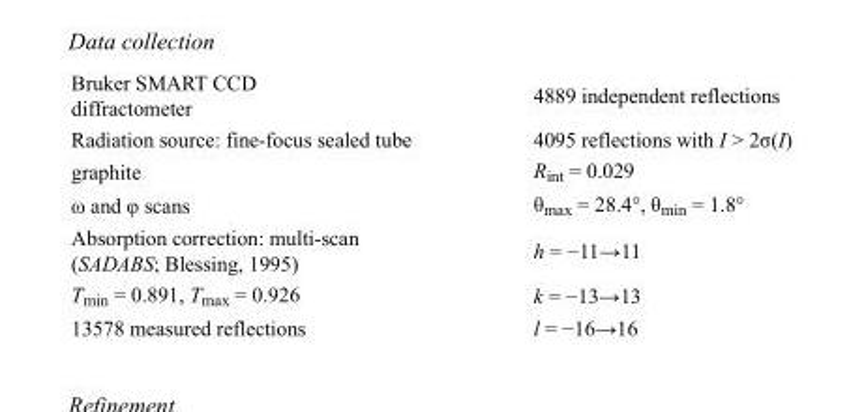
<table><tbody><tr><td>Bruker SMART CCD diffractometer</td><td>4889 independent reflections</td></tr><tr><td>Radiation source: fine-focus sealed tube</td><td>4095 reflections with I &gt; 2σ(I)</td></tr><tr><td>graphite</td><td>R<sub>int</sub> = 0.029</td></tr><tr><td>ω and φ scans</td><td>θ<sub>max</sub> = 28.4°, θ<sub>min</sub> = 1.8°</td></tr><tr><td>Absorption correction: multi-scan (SADABS; Blessing, 1995)</td><td>h = −11→11</td></tr><tr><td>T<sub>min</sub> = 0.891, T<sub>max</sub> = 0.926</td><td>k = −13→13</td></tr><tr><td>13578 measured reflections</td><td>l = −16→16</td></tr></tbody></table>